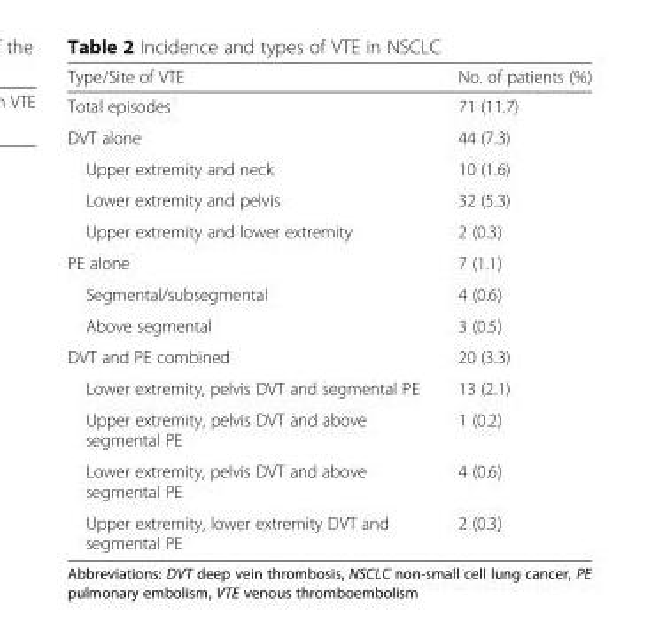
<table><thead><tr><td>Type/Site of VTE</td><td>No. of patients (%)</td></tr></thead><tbody><tr><td>Total episodes</td><td>71 (11.7)</td></tr><tr><td>DVT alone</td><td>44 (7.3)</td></tr><tr><td>Upper extremity and neck</td><td>10 (1.6)</td></tr><tr><td>Lower extremity and pelvis</td><td>32 (5.3)</td></tr><tr><td>Upper extremity and lower extremity</td><td>2 (0.3)</td></tr><tr><td>PE alone</td><td>7 (1.1)</td></tr><tr><td>Segmental/subsegmental</td><td>4 (0.6)</td></tr><tr><td>Above segmental</td><td>3 (0.5)</td></tr><tr><td>DVT and PE combined</td><td>20 (3.3)</td></tr><tr><td>Lower extremity, pelvis DVT and segmental PE</td><td>13 (2.1)</td></tr><tr><td>Upper extremity, pelvis DVT and above segmental PE</td><td>1 (0.2)</td></tr><tr><td>Lower extremity, pelvis DVT and above segmental PE</td><td>4 (0.6)</td></tr><tr><td>Upper extremity, lower extremity DVT and segmental PE</td><td>2 (0.3)</td></tr></tbody></table>